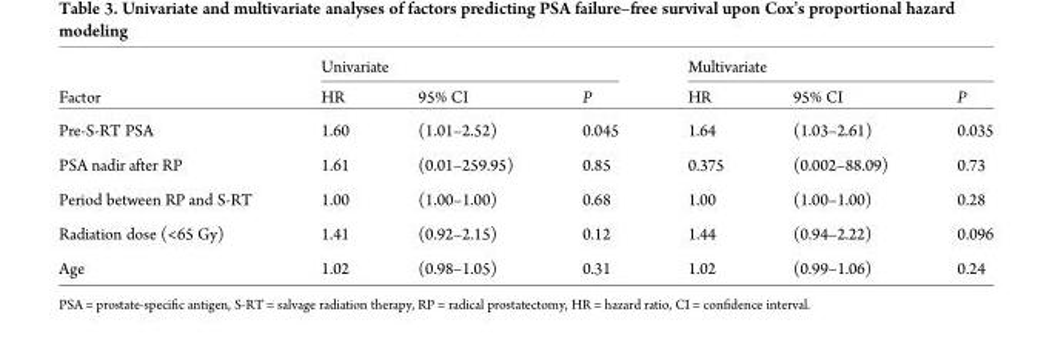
<table><thead><tr><td rowspan="2">Factor</td><td colspan="3">Univariate</td><td colspan="3">Multivariate</td></tr><tr><td>HR</td><td>95% CI</td><td>P</td><td>HR</td><td>95% CI</td><td>P</td></tr></thead><tbody><tr><td>Pre-S-RT PSA</td><td>1.60</td><td>(1.01–2.52)</td><td>0.045</td><td>1.64</td><td>(1.03–2.61)</td><td>0.035</td></tr><tr><td>PSA nadir after RP</td><td>1.61</td><td>(0.01–259.95)</td><td>0.85</td><td>0.375</td><td>(0.002–88.09)</td><td>0.73</td></tr><tr><td>Period between RP and S-RT</td><td>1.00</td><td>(1.00–1.00)</td><td>0.68</td><td>1.00</td><td>(1.00–1.00)</td><td>0.28</td></tr><tr><td>Radiation dose (&lt;65 Gy)</td><td>1.41</td><td>(0.92–2.15)</td><td>0.12</td><td>1.44</td><td>(0.94–2.22)</td><td>0.096</td></tr><tr><td>Age</td><td>1.02</td><td>(0.98–1.05)</td><td>0.31</td><td>1.02</td><td>(0.99–1.06)</td><td>0.24</td></tr></tbody></table>